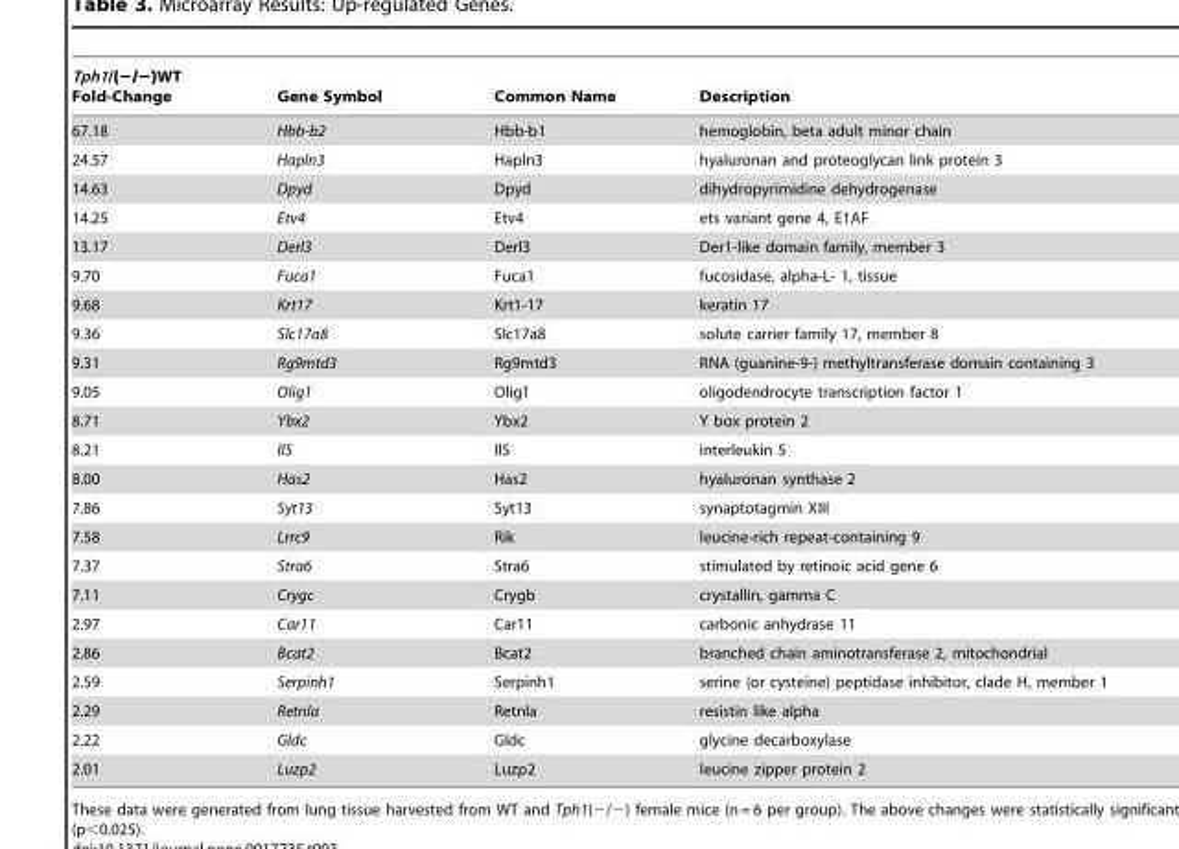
<table><thead><tr><td>Tph1/((2/2)WT Fold-Change</td><td>Gene Symbol</td><td>Common Name</td><td>Description</td></tr></thead><tbody><tr><td>67.18</td><td>Hbb-b2</td><td>Hbb-b1</td><td>hemoglobin, beta adult minor chain</td></tr><tr><td>24.57</td><td>Hapln3</td><td>Hapln3</td><td>hyaluronan and proteoglycan link protein 3</td></tr><tr><td>14.63</td><td>Dpyd</td><td>Dpyd</td><td>dihydropyrimidine dehydrogenase</td></tr><tr><td>14.25</td><td>Etv4</td><td>Etv4</td><td>ets variant gene 4, E1AF</td></tr><tr><td>13.17</td><td>Derl3</td><td>Derl3</td><td>Der1-like domain family, member 3</td></tr><tr><td>9.70</td><td>Fuca1</td><td>Fuca1</td><td>fucosidase, alpha-L- 1, tissue</td></tr><tr><td>9.68</td><td>Krt17</td><td>Krt1-17</td><td>keratin 17</td></tr><tr><td>9.36</td><td>Slc17a8</td><td>Slc17a8</td><td>solute carrier family 17, member 8</td></tr><tr><td>9.31</td><td>Rg9mtd3</td><td>Rg9mtd3</td><td>RNA (guanine-9-) methyltransferase domain containing 3</td></tr><tr><td>9.05</td><td>Olig1</td><td>Olig1</td><td>oligodendrocyte transcription factor 1</td></tr><tr><td>8.71</td><td>Ybx2</td><td>Ybx2</td><td>Y box protein 2</td></tr><tr><td>8.21</td><td>Il5</td><td>Il5</td><td>interleukin 5</td></tr><tr><td>8.00</td><td>Has2</td><td>Has2</td><td>hyaluronan synthase 2</td></tr><tr><td>7.86</td><td>Syt13</td><td>Syt13</td><td>synaptotagmin XIII</td></tr><tr><td>7.58</td><td>Lrrc9</td><td>Rik</td><td>leucine-rich repeat-containing 9</td></tr><tr><td>7.37</td><td>Stra6</td><td>Stra6</td><td>stimulated by retinoic acid gene 6</td></tr><tr><td>7.11</td><td>Crygc</td><td>Crygb</td><td>crystallin, gamma C</td></tr><tr><td>2.97</td><td>Car11</td><td>Car11</td><td>carbonic anhydrase 11</td></tr><tr><td>2.86</td><td>Bcat2</td><td>Bcat2</td><td>branched chain aminotransferase 2, mitochondrial</td></tr><tr><td>2.59</td><td>Serpinh1</td><td>Serpinh1</td><td>serine (or cysteine) peptidase inhibitor, clade H, member 1</td></tr><tr><td>2.29</td><td>Retnla</td><td>Retnla</td><td>resistin like alpha</td></tr><tr><td>2.22</td><td>Gldc</td><td>Gldc</td><td>glycine decarboxylase</td></tr><tr><td>2.01</td><td>Luzp2</td><td>Luzp2</td><td>leucine zipper protein 2</td></tr></tbody></table>